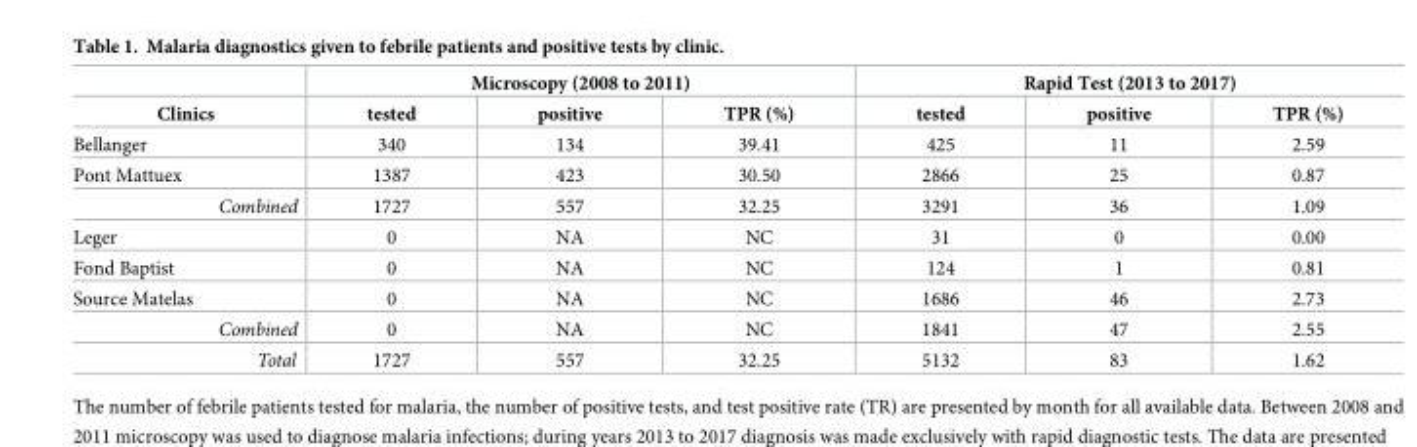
<table><thead><tr><td rowspan="2">Clinics</td><td colspan="3">Microscopy (2008 to 2011)</td><td colspan="3">Rapid Test (2013 to 2017)</td></tr><tr><td>tested</td><td>positive</td><td>TPR (%)</td><td>tested</td><td>positive</td><td>TPR (%)</td></tr></thead><tbody><tr><td>Bellanger</td><td>340</td><td>134</td><td>39.41</td><td>425</td><td>11</td><td>2.59</td></tr><tr><td>Pont Mattuex</td><td>1387</td><td>423</td><td>30.50</td><td>2866</td><td>25</td><td>0.87</td></tr><tr><td>Combined</td><td>1727</td><td>557</td><td>32.25</td><td>3291</td><td>36</td><td>1.09</td></tr><tr><td>Leger</td><td>0</td><td>NA</td><td>NC</td><td>31</td><td>0</td><td>0.00</td></tr><tr><td>Fond Baptist</td><td>0</td><td>NA</td><td>NC</td><td>124</td><td>1</td><td>0.81</td></tr><tr><td>Source Matelas</td><td>0</td><td>NA</td><td>NC</td><td>1686</td><td>46</td><td>2.73</td></tr><tr><td>Combined</td><td>0</td><td>NA</td><td>NC</td><td>1841</td><td>47</td><td>2.55</td></tr><tr><td>Total</td><td>1727</td><td>557</td><td>32.25</td><td>5132</td><td>83</td><td>1.62</td></tr></tbody></table>